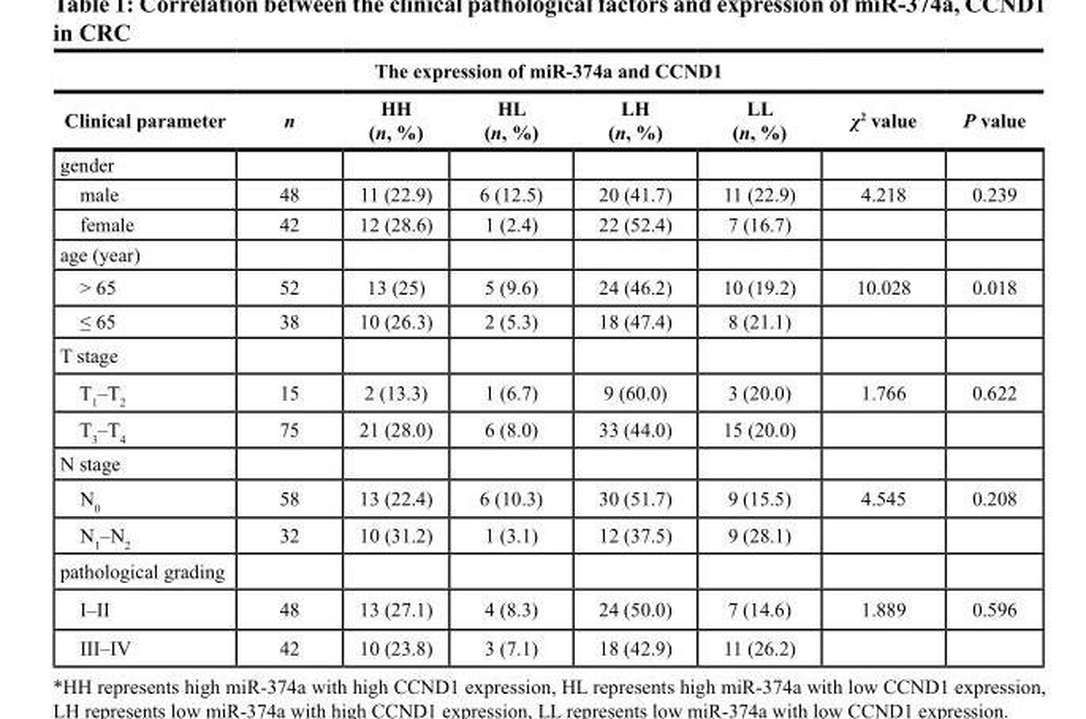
<table><thead><tr><td colspan="8">the expression of mir-374a and ccnd1</td></tr><tr><td>clinical parameter</td><td>n</td><td>HH (n, %)</td><td>HL (n, %)</td><td>LH (n, %)</td><td>LL (n, %)</td><td>χ<sup>2</sup> value</td><td>P value</td></tr></thead><tbody><tr><td colspan="8">gender</td></tr><tr><td>male</td><td>48</td><td>11 (22.9)</td><td>6 (12.5)</td><td>20 (41.7)</td><td>11 (22.9)</td><td>4.218</td><td>0.239</td></tr><tr><td>female</td><td>42</td><td>12 (28.6)</td><td>1 (2.4)</td><td>22 (52.4)</td><td>7 (16.7)</td><td></td><td></td></tr><tr><td colspan="8">age (year)</td></tr><tr><td>&gt; 65</td><td>52</td><td>13 (25)</td><td>5 (9.6)</td><td>24 (46.2)</td><td>10 (19.2)</td><td>10.028</td><td>0.018</td></tr><tr><td>≤ 65</td><td>38</td><td>10 (26.3)</td><td>2 (5.3)</td><td>18 (47.4)</td><td>8 (21.1)</td><td></td><td></td></tr><tr><td colspan="8">T stage</td></tr><tr><td>T<sub>1</sub>–T<sub>2</sub></td><td>15</td><td>2 (13.3)</td><td>1 (6.7)</td><td>9 (60.0)</td><td>3 (20.0)</td><td>1.766</td><td>0.622</td></tr><tr><td>T<sub>3</sub>–T<sub>4</sub></td><td>75</td><td>21 (28.0)</td><td>6 (8.0)</td><td>33 (44.0)</td><td>15 (20.0)</td><td></td><td></td></tr><tr><td colspan="8">N stage</td></tr><tr><td>N<sub>0</sub></td><td>58</td><td>13 (22.4)</td><td>6 (10.3)</td><td>30 (51.7)</td><td>9 (15.5)</td><td>4.545</td><td>0.208</td></tr><tr><td>N<sub>1</sub>–N<sub>2</sub></td><td>32</td><td>10 (31.2)</td><td>1 (3.1)</td><td>12 (37.5)</td><td>9 (28.1)</td><td></td><td></td></tr><tr><td colspan="8">pathological grading</td></tr><tr><td>I–II</td><td>48</td><td>13 (27.1)</td><td>4 (8.3)</td><td>24 (50.0)</td><td>7 (14.6)</td><td>1.889</td><td>0.596</td></tr><tr><td>III–IV</td><td>42</td><td>10 (23.8)</td><td>3 (7.1)</td><td>18 (42.9)</td><td>11 (26.2)</td><td></td><td></td></tr></tbody></table>